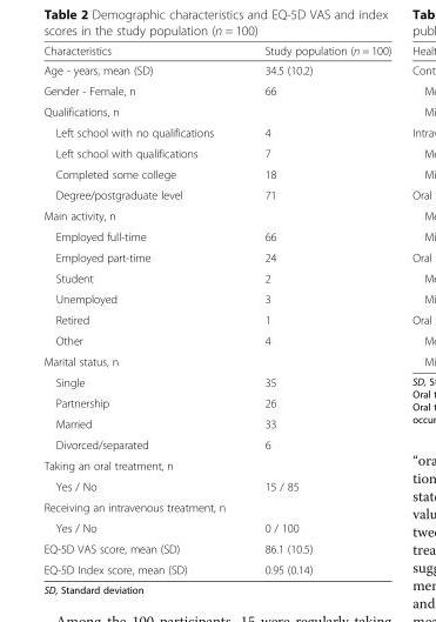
<table><thead><tr><td>Characteristics</td><td>Study population (n = 100)</td></tr></thead><tbody><tr><td>Age - years, mean (SD)</td><td>34.5 (10.2)</td></tr><tr><td>Gender - Female, n</td><td>66</td></tr><tr><td colspan="2">Qualifications, n</td></tr><tr><td>Left school with no qualifications</td><td>4</td></tr><tr><td>Left school with qualifications</td><td>7</td></tr><tr><td>Completed some college</td><td>18</td></tr><tr><td>Degree/postgraduate level</td><td>71</td></tr><tr><td colspan="2">Main activity, n</td></tr><tr><td>Employed full-time</td><td>66</td></tr><tr><td>Employed part-time</td><td>24</td></tr><tr><td>Student</td><td>2</td></tr><tr><td>Unemployed</td><td>3</td></tr><tr><td>Retired</td><td>1</td></tr><tr><td>Other</td><td>4</td></tr><tr><td colspan="2">Marital status, n</td></tr><tr><td>Single</td><td>35</td></tr><tr><td>Partnership</td><td>26</td></tr><tr><td>Married</td><td>33</td></tr><tr><td>Divorced/separated</td><td>6</td></tr><tr><td colspan="2">Taking an oral treatment, n</td></tr><tr><td>Yes / No</td><td>15 / 85</td></tr><tr><td colspan="2">Receiving an intravenous treatment, n</td></tr><tr><td>Yes / No</td><td>0 / 100</td></tr><tr><td>EQ-5D VAS score, mean (SD)</td><td>86.1 (10.5)</td></tr><tr><td>EQ-5D Index score, mean (SD)</td><td>0.95 (0.14)</td></tr></tbody></table>